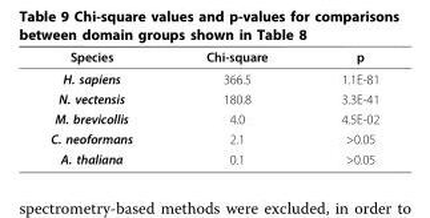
<table><thead><tr><td>Species</td><td>Chi-square</td><td>p</td></tr></thead><tbody><tr><td>H. sapiens</td><td>366.5</td><td>1.1E-81</td></tr><tr><td>N. vectensis</td><td>180.8</td><td>3.3E-41</td></tr><tr><td>M. brevicollis</td><td>4.0</td><td>4.5E-02</td></tr><tr><td>C. neoformans</td><td>2.1</td><td>&gt;0.05</td></tr><tr><td>A. thaliana</td><td>0.1</td><td>&gt;0.05</td></tr></tbody></table>